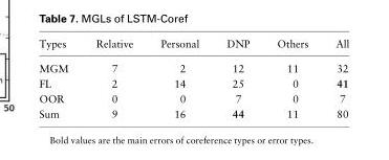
<table><thead><tr><td>Types</td><td>Relative</td><td>Personal</td><td>DNP</td><td>Others</td><td>All</td></tr></thead><tbody><tr><td>MGM</td><td>7</td><td>2</td><td>12</td><td>11</td><td>32</td></tr><tr><td>FL</td><td>2</td><td>14</td><td>25</td><td>0</td><td>41</td></tr><tr><td>OOR</td><td>0</td><td>0</td><td>7</td><td>0</td><td>7</td></tr><tr><td>Sum</td><td>9</td><td>16</td><td>44</td><td>11</td><td>80</td></tr></tbody></table>